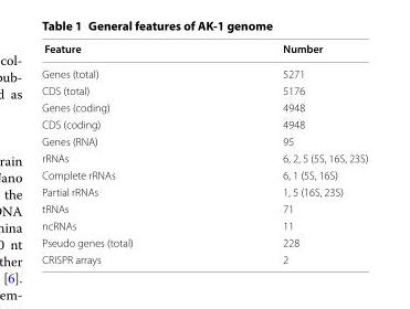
<table><thead><tr><td>Feature</td><td>Number</td></tr></thead><tbody><tr><td>Genes (total)</td><td>5271</td></tr><tr><td>CDS (total)</td><td>5176</td></tr><tr><td>Genes (coding)</td><td>4948</td></tr><tr><td>CDS (coding)</td><td>4948</td></tr><tr><td>Genes (RNA)</td><td>95</td></tr><tr><td>rRNAs</td><td>6, 2, 5 (5S, 16S, 23S)</td></tr><tr><td>Complete rRNAs</td><td>6, 1 (5S, 16S)</td></tr><tr><td>Partial rRNAs</td><td>1, 5 (16S, 23S)</td></tr><tr><td>tRNAs</td><td>71</td></tr><tr><td>ncRNAs</td><td>11</td></tr><tr><td>Pseudo genes (total)</td><td>228</td></tr><tr><td>CRISPR arrays</td><td>2</td></tr></tbody></table>